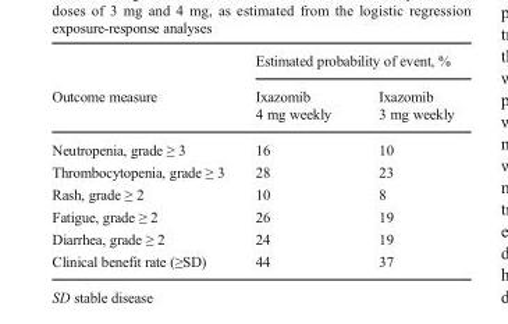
<table><thead><tr><td rowspan="2">Outcome measure</td><td colspan="2">Estimated probability of event, %</td></tr><tr><td>Ixazomib 4 mg weekly</td><td>Ixazomib 3 mg weekly</td></tr></thead><tbody><tr><td>Neutropenia, grade ≥ 3</td><td>16</td><td>10</td></tr><tr><td>Thrombocytopenia, grade ≥ 3</td><td>28</td><td>23</td></tr><tr><td>Rash, grade ≥ 2</td><td>10</td><td>8</td></tr><tr><td>Fatigue, grade ≥ 2</td><td>26</td><td>19</td></tr><tr><td>Diarrhea, grade ≥ 2</td><td>24</td><td>19</td></tr><tr><td>Clinical benefit rate (≥SD)</td><td>44</td><td>37</td></tr></tbody></table>